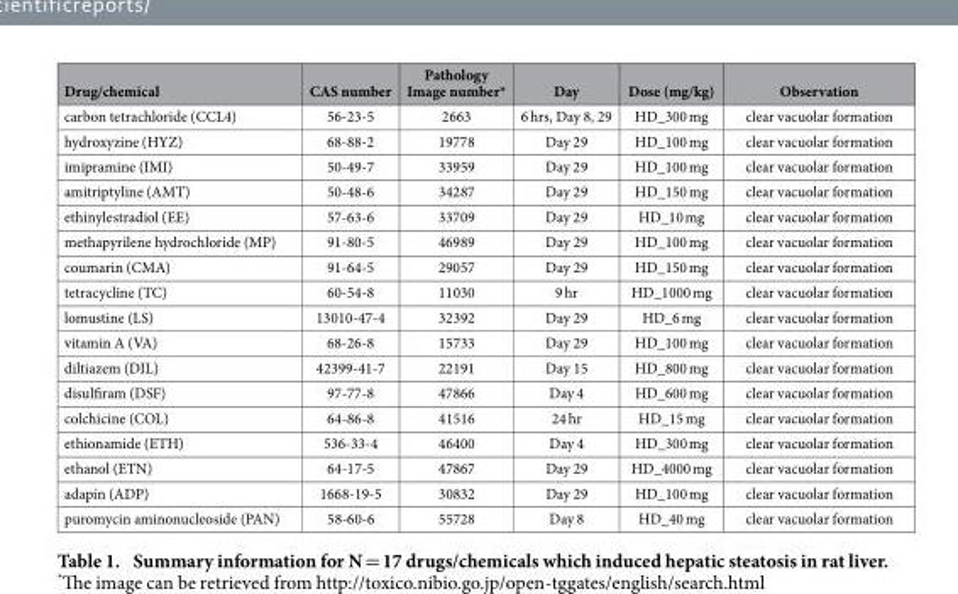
<table><thead><tr><td>Drug/chemical</td><td>CAS number</td><td>Pathology Image number*</td><td>Day</td><td>Dose (mg/kg)</td><td>Observation</td></tr></thead><tbody><tr><td>carbon tetrachloride (CCL4)</td><td>56-23-5</td><td>2663</td><td>6 hrs, Day 8, 29</td><td>HD_300 mg</td><td>clear vacuolar formation</td></tr><tr><td>hydroxyzine (HYZ)</td><td>68-88-2</td><td>19778</td><td>Day 29</td><td>HD_100 mg</td><td>clear vacuolar formation</td></tr><tr><td>imipramine (IMI)</td><td>50-49-7</td><td>33959</td><td>Day 29</td><td>HD_100 mg</td><td>clear vacuolar formation</td></tr><tr><td>amitriptyline (AMT)</td><td>50-48-6</td><td>34287</td><td>Day 29</td><td>HD_150 mg</td><td>clear vacuolar formation</td></tr><tr><td>ethinylestradiol (EE)</td><td>57-63-6</td><td>33709</td><td>Day 29</td><td>HD_10 mg</td><td>clear vacuolar formation</td></tr><tr><td>methapyrilene hydrochloride (MP)</td><td>91-80-5</td><td>46989</td><td>Day 29</td><td>HD_100 mg</td><td>clear vacuolar formation</td></tr><tr><td>coumarin (CMA)</td><td>91-64-5</td><td>29057</td><td>Day 29</td><td>HD_150 mg</td><td>clear vacuolar formation</td></tr><tr><td>tetracycline (TC)</td><td>60-54-8</td><td>11030</td><td>9 hr</td><td>HD_1000 mg</td><td>clear vacuolar formation</td></tr><tr><td>lomustine (LS)</td><td>13010-47-4</td><td>32392</td><td>Day 29</td><td>HD_6 mg</td><td>clear vacuolar formation</td></tr><tr><td>vitamin A (VA)</td><td>68-26-8</td><td>15733</td><td>Day 29</td><td>HD_100 mg</td><td>clear vacuolar formation</td></tr><tr><td>diltiazem (DIL)</td><td>42399-41-7</td><td>22191</td><td>Day 15</td><td>HD_800 mg</td><td>clear vacuolar formation</td></tr><tr><td>disulfiram (DSF)</td><td>97-77-8</td><td>47866</td><td>Day 4</td><td>HD_600 mg</td><td>clear vacuolar formation</td></tr><tr><td>colchicine (COL)</td><td>64-86-8</td><td>41516</td><td>24 hr</td><td>HD_15 mg</td><td>clear vacuolar formation</td></tr><tr><td>ethionamide (ETH)</td><td>536-33-4</td><td>46400</td><td>Day 4</td><td>HD_300 mg</td><td>clear vacuolar formation</td></tr><tr><td>ethanol (ETN)</td><td>64-17-5</td><td>47867</td><td>Day 29</td><td>HD_4000 mg</td><td>clear vacuolar formation</td></tr><tr><td>adapin (ADP)</td><td>1668-19-5</td><td>30832</td><td>Day 29</td><td>HD_100 mg</td><td>clear vacuolar formation</td></tr><tr><td>puromycin aminonucleoside (PAN)</td><td>58-60-6</td><td>55728</td><td>Day 8</td><td>HD_40 mg</td><td>clear vacuolar formation</td></tr></tbody></table>